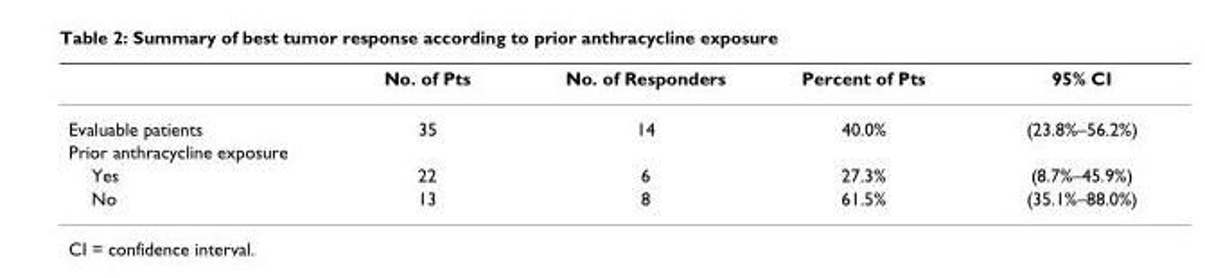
<table><thead><tr><td></td><td>No. of Pts</td><td>No. of Responders</td><td>Percent of Pts</td><td>95% CI</td></tr></thead><tbody><tr><td>Evaluable patients</td><td>35</td><td>14</td><td>40.0%</td><td>(23.8%–56.2%)</td></tr><tr><td colspan="5">Prior anthracycline exposure</td></tr><tr><td>Yes</td><td>22</td><td>6</td><td>27.3%</td><td>(8.7%–45.9%)</td></tr><tr><td>No</td><td>13</td><td>8</td><td>61.5%</td><td>(35.1%–88.0%)</td></tr></tbody></table>